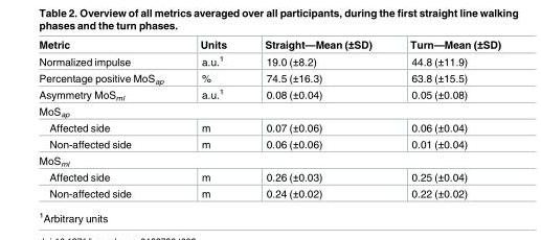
<table><thead><tr><td>Metric</td><td>Units</td><td>Straight—Mean (±SD)</td><td>Turn—Mean (±SD)</td></tr></thead><tbody><tr><td>Normalized impulse</td><td>a.u.<sup>1</sup></td><td>19.0 (±8.2)</td><td>44.8 (±11.9)</td></tr><tr><td>Percentage positive MoS<sub>ap</sub></td><td>%</td><td>74.5 (±16.3)</td><td>63.8 (±15.5)</td></tr><tr><td>Asymmetry MoS<sub>ml</sub></td><td>a.u.<sup>1</sup></td><td>0.08 (±0.04)</td><td>0.05 (±0.08)</td></tr><tr><td colspan="4">MoS<sub>ap</sub></td></tr><tr><td>Affected side</td><td>m</td><td>0.07 (±0.06)</td><td>0.06 (±0.04)</td></tr><tr><td>Non-affected side</td><td>m</td><td>0.06 (±0.06)</td><td>0.01 (±0.04)</td></tr><tr><td colspan="4">MoS<sub>ml</sub></td></tr><tr><td>Affected side</td><td>m</td><td>0.26 (±0.03)</td><td>0.25 (±0.04)</td></tr><tr><td>Non-affected side</td><td>m</td><td>0.24 (±0.02)</td><td>0.22 (±0.02)</td></tr></tbody></table>